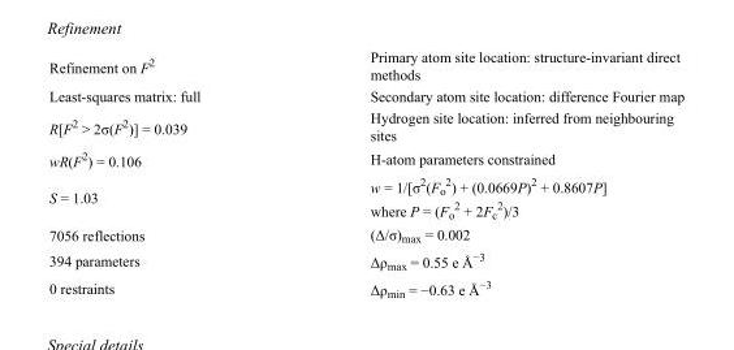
<table><tbody><tr><td>Refinement on F<sup>2</sup></td><td>Primary atom site location: structure-invariant direct methods</td></tr><tr><td>Least-squares matrix: full</td><td>Secondary atom site location: difference Fourier map</td></tr><tr><td>R[F<sup>2</sup> &gt; 2σ(F<sup>2</sup>)] = 0.039</td><td>Hydrogen site location: inferred from neighbouring sites</td></tr><tr><td>wR(F<sup>2</sup>) = 0.106</td><td>H-atom parameters constrained</td></tr><tr><td>S = 1.03</td><td>w = 1/[σ<sup>2</sup>(F<sub>o</sub> <sup>2</sup>) + (0.0669P)<sup>2</sup> + 0.8607P] where P = (F<sub>o</sub> <sup>2</sup> + 2F<sub>c</sub> <sup>2</sup>)/3</td></tr><tr><td>7056 reflections</td><td>(Δ/σ)<sub>max</sub> = 0.002</td></tr><tr><td>394 parameters</td><td>Δρ<sub>max</sub> = 0.55 e Å<sup>−3</sup></td></tr><tr><td>0 restraints</td><td>Δρ<sub>min</sub> = −0.63 e Å<sup>−3</sup></td></tr></tbody></table>